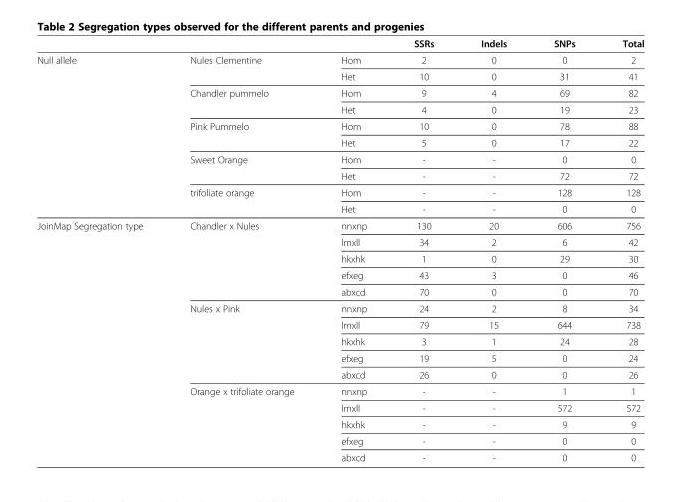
<table><thead><tr><td></td><td></td><td></td><td>SSRs</td><td>Indels</td><td>SNPs</td><td>Total</td></tr></thead><tbody><tr><td rowspan="10">Null allele</td><td>Nules Clementine</td><td>Hom</td><td>2</td><td>0</td><td>0</td><td>2</td></tr><tr><td></td><td>Het</td><td>10</td><td>0</td><td>31</td><td>41</td></tr><tr><td>Chandler pummelo</td><td>Hom</td><td>9</td><td>4</td><td>69</td><td>82</td></tr><tr><td></td><td>Het</td><td>4</td><td>0</td><td>19</td><td>23</td></tr><tr><td>Pink Pummelo</td><td>Hom</td><td>10</td><td>0</td><td>78</td><td>88</td></tr><tr><td></td><td>Het</td><td>5</td><td>0</td><td>17</td><td>22</td></tr><tr><td>Sweet Orange</td><td>Hom</td><td>-</td><td>-</td><td>0</td><td>0</td></tr><tr><td></td><td>Het</td><td>-</td><td>-</td><td>72</td><td>72</td></tr><tr><td>trifoliate orange</td><td>Hom</td><td>-</td><td>-</td><td>128</td><td>128</td></tr><tr><td></td><td>Het</td><td>-</td><td>-</td><td>0</td><td>0</td></tr><tr><td rowspan="15">JoinMap Segregation type</td><td>Chandler x Nules</td><td>nnxnp</td><td>130</td><td>20</td><td>606</td><td>756</td></tr><tr><td></td><td>lmxll</td><td>34</td><td>2</td><td>6</td><td>42</td></tr><tr><td></td><td>hkxhk</td><td>1</td><td>0</td><td>29</td><td>30</td></tr><tr><td></td><td>efxeg</td><td>43</td><td>3</td><td>0</td><td>46</td></tr><tr><td></td><td>abxcd</td><td>70</td><td>0</td><td>0</td><td>70</td></tr><tr><td>Nules x Pink</td><td>nnxnp</td><td>24</td><td>2</td><td>8</td><td>34</td></tr><tr><td></td><td>lmxll</td><td>79</td><td>15</td><td>644</td><td>738</td></tr><tr><td></td><td>hkxhk</td><td>3</td><td>1</td><td>24</td><td>28</td></tr><tr><td></td><td>efxeg</td><td>19</td><td>5</td><td>0</td><td>24</td></tr><tr><td></td><td>abxcd</td><td>26</td><td>0</td><td>0</td><td>26</td></tr><tr><td>Orange x trifoliate orange</td><td>nnxnp</td><td>-</td><td>-</td><td>1</td><td>1</td></tr><tr><td></td><td>lmxll</td><td>-</td><td>-</td><td>572</td><td>572</td></tr><tr><td></td><td>hkxhk</td><td>-</td><td>-</td><td>9</td><td>9</td></tr><tr><td></td><td>efxeg</td><td>-</td><td>-</td><td>0</td><td>0</td></tr><tr><td></td><td>abxcd</td><td>-</td><td>-</td><td>0</td><td>0</td></tr></tbody></table>